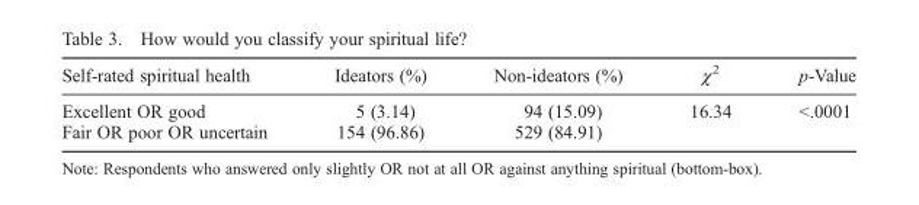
<table><thead><tr><td>Self-rated spiritual health</td><td>Ideators (%)</td><td>Non-ideators (%)</td><td>χ<sup>2</sup></td><td>p-Value</td></tr></thead><tbody><tr><td>Excellent OR good</td><td>5 (3.14)</td><td>94 (15.09)</td><td rowspan="2">16.34</td><td rowspan="2">&lt;.0001</td></tr><tr><td>Fair OR poor OR uncertain</td><td>154 (96.86)</td><td>529 (84.91)</td></tr></tbody></table>